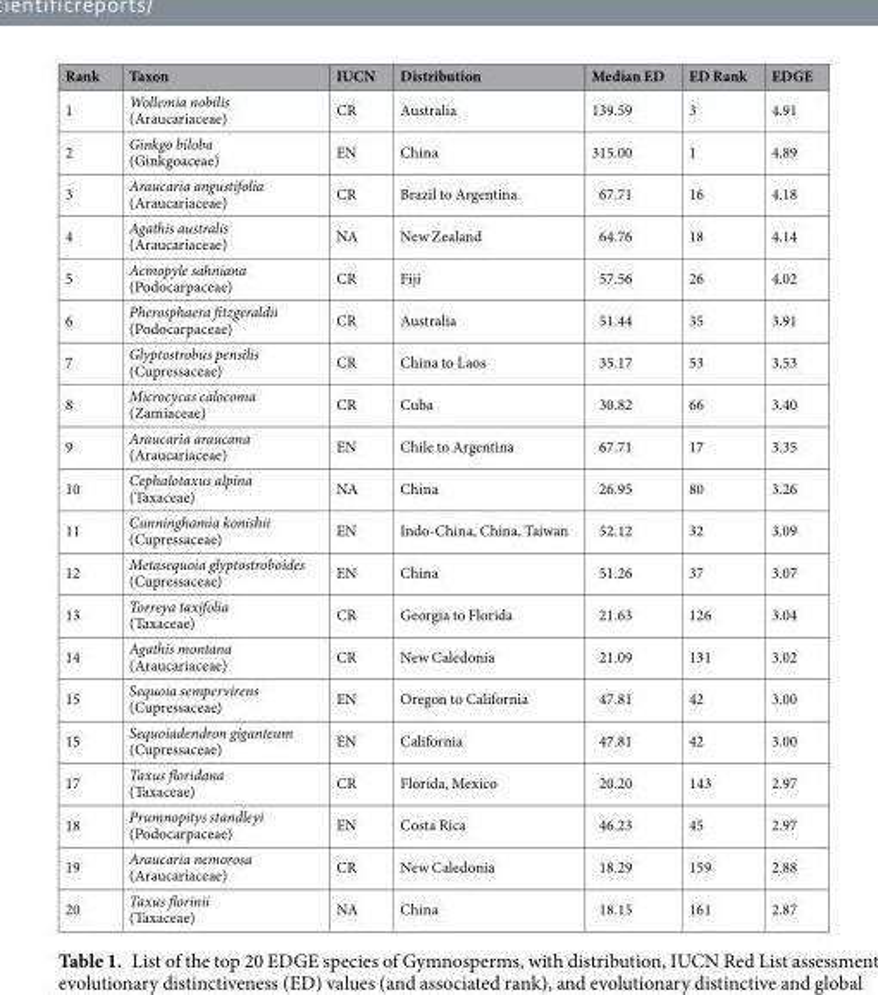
<table><thead><tr><td>Rank</td><td>Taxon</td><td>IUCN</td><td>Distribution</td><td>Median ED</td><td>ED Rank</td><td>EDGE</td></tr></thead><tbody><tr><td>1</td><td>Wollemia nobilis (Araucariaceae)</td><td>CR</td><td>Australia</td><td>139.59</td><td>3</td><td>4.91</td></tr><tr><td>2</td><td>Ginkgo biloba (Ginkgoaceae)</td><td>EN</td><td>China</td><td>315.00</td><td>1</td><td>4.89</td></tr><tr><td>3</td><td>Araucaria angustifolia (Araucariaceae)</td><td>CR</td><td>Brazil to Argentina</td><td>67.71</td><td>16</td><td>4.18</td></tr><tr><td>4</td><td>Agathis australis (Araucariaceae)</td><td>NA</td><td>New Zealand</td><td>64.76</td><td>18</td><td>4.14</td></tr><tr><td>5</td><td>Acmopyle sahniana (Podocarpaceae)</td><td>CR</td><td>Fiji</td><td>57.56</td><td>26</td><td>4.02</td></tr><tr><td>6</td><td>Pherosphaera fitzgeraldii (Podocarpaceae)</td><td>CR</td><td>Australia</td><td>51.44</td><td>35</td><td>3.91</td></tr><tr><td>7</td><td>Glyptostrobus pensilis (Cupressaceae)</td><td>CR</td><td>China to Laos</td><td>35.17</td><td>53</td><td>3.53</td></tr><tr><td>8</td><td>Microcycas calocoma (Zamiaceae)</td><td>CR</td><td>Cuba</td><td>30.82</td><td>66</td><td>3.40</td></tr><tr><td>9</td><td>Araucaria araucana (Araucariaceae)</td><td>EN</td><td>Chile to Argentina</td><td>67.71</td><td>17</td><td>3.35</td></tr><tr><td>10</td><td>Cephalotaxus alpina (Taxaceae)</td><td>NA</td><td>China</td><td>26.95</td><td>80</td><td>3.26</td></tr><tr><td>11</td><td>Cunninghamia konishii (Cupressaceae)</td><td>EN</td><td>Indo-China, China, Taiwan</td><td>52.12</td><td>32</td><td>3.09</td></tr><tr><td>12</td><td>Metasequoia glyptostroboides (Cupressaceae)</td><td>EN</td><td>China</td><td>51.26</td><td>37</td><td>3.07</td></tr><tr><td>13</td><td>Torreya taxifolia (Taxaceae)</td><td>CR</td><td>Georgia to Florida</td><td>21.63</td><td>126</td><td>3.04</td></tr><tr><td>14</td><td>Agathis montana (Araucariaceae)</td><td>CR</td><td>New Caledonia</td><td>21.09</td><td>131</td><td>3.02</td></tr><tr><td>15</td><td>Sequoia sempervirens (Cupressaceae)</td><td>EN</td><td>Oregon to California</td><td>47.81</td><td>42</td><td>3.00</td></tr><tr><td>15</td><td>Sequoiadendron giganteum (Cupressaceae)</td><td>EN</td><td>California</td><td>47.81</td><td>42</td><td>3.00</td></tr><tr><td>17</td><td>Taxus floridana (Taxaceae)</td><td>CR</td><td>Florida, Mexico</td><td>20.20</td><td>143</td><td>2.97</td></tr><tr><td>18</td><td>Prumnopitys standleyi (Podocarpaceae)</td><td>EN</td><td>Costa Rica</td><td>46.23</td><td>45</td><td>2.97</td></tr><tr><td>19</td><td>Araucaria nemorosa (Araucariaceae)</td><td>CR</td><td>New Caledonia</td><td>18.29</td><td>159</td><td>2.88</td></tr><tr><td>20</td><td>Taxus florinii (Taxaceae)</td><td>NA</td><td>China</td><td>18.15</td><td>161</td><td>2.87</td></tr></tbody></table>